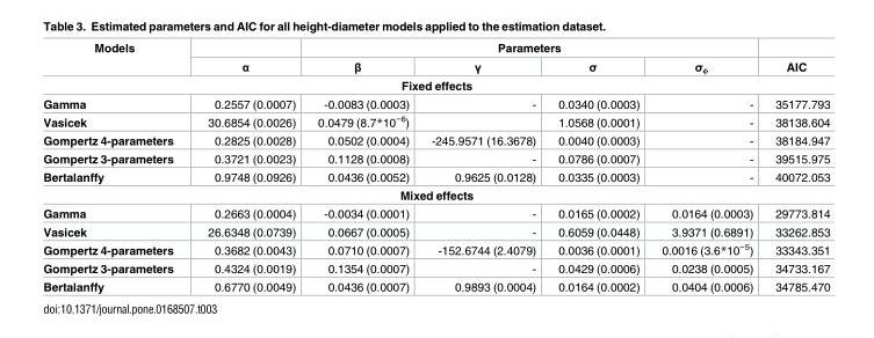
<table><thead><tr><td rowspan="2">Models</td><td rowspan="2">α</td><td colspan="4">Parameters</td><td rowspan="2">AIC</td></tr><tr><td>β</td><td>γ</td><td>σ</td><td>σ<sub>ϕ</sub></td></tr></thead><tbody><tr><td colspan="7">Fixed effects</td></tr><tr><td>Gamma</td><td>0.2557 (0.0007)</td><td>-0.0083 (0.0003)</td><td>-</td><td>0.0340 (0.0003)</td><td>-</td><td>35177.793</td></tr><tr><td>Vasicek</td><td>30.6854 (0.0026)</td><td>0.0479 (8.7*10<sup>−6</sup>)</td><td></td><td>1.0568 (0.0001)</td><td>-</td><td>38138.604</td></tr><tr><td>Gompertz 4-parameters</td><td>0.2825 (0.0028)</td><td>0.0502 (0.0004)</td><td>-245.9571 (16.3678)</td><td>0.0040 (0.0003)</td><td>-</td><td>38184.947</td></tr><tr><td>Gompertz 3-parameters</td><td>0.3721 (0.0023)</td><td>0.1128 (0.0008)</td><td>-</td><td>0.0786 (0.0007)</td><td>-</td><td>39515.975</td></tr><tr><td>Bertalanffy</td><td>0.9748 (0.0926)</td><td>0.0436 (0.0052)</td><td>0.9625 (0.0128)</td><td>0.0335 (0.0003)</td><td>-</td><td>40072.053</td></tr><tr><td colspan="7">Mixed effects</td></tr><tr><td>Gamma</td><td>0.2663 (0.0004)</td><td>-0.0034 (0.0001)</td><td>-</td><td>0.0165 (0.0002)</td><td>0.0164 (0.0003)</td><td>29773.814</td></tr><tr><td>Vasicek</td><td>26.6348 (0.0739)</td><td>0.0667 (0.0005)</td><td>-</td><td>0.6059 (0.0448)</td><td>3.9371 (0.6891)</td><td>33262.853</td></tr><tr><td>Gompertz 4-parameters</td><td>0.3682 (0.0043)</td><td>0.0710 (0.0007)</td><td>-152.6744 (2.4079)</td><td>0.0036 (0.0001)</td><td>0.0016 (3.6*10<sup>−5</sup>)</td><td>33343.351</td></tr><tr><td>Gompertz 3-parameters</td><td>0.4324 (0.0019)</td><td>0.1354 (0.0007)</td><td>-</td><td>0.0429 (0.0006)</td><td>0.0238 (0.0005)</td><td>34733.167</td></tr><tr><td>Bertalanffy</td><td>0.6770 (0.0049)</td><td>0.0436 (0.0007)</td><td>0.9893 (0.0004)</td><td>0.0164 (0.0002)</td><td>0.0404 (0.0006)</td><td>34785.470</td></tr></tbody></table>